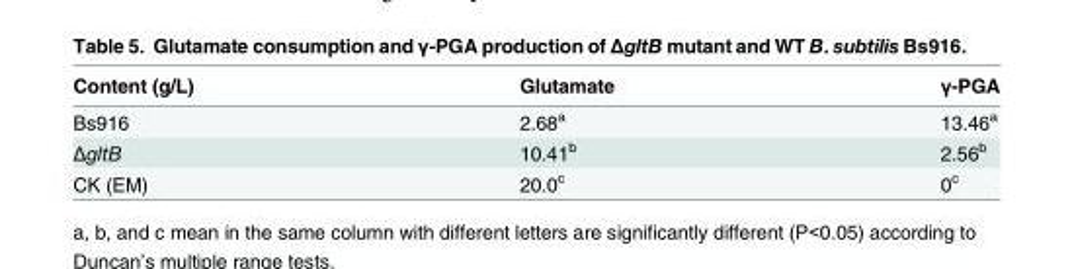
<table><thead><tr><td>Content (g/L)</td><td>Glutamate</td><td>γ-PGA</td></tr></thead><tbody><tr><td>Bs916</td><td>2.68<sup>a</sup></td><td>13.46<sup>a</sup></td></tr><tr><td>ΔgltB</td><td>10.41<sup>b</sup></td><td>2.56<sup>b</sup></td></tr><tr><td>CK (EM)</td><td>20.0<sup>c</sup></td><td>0<sup>c</sup></td></tr></tbody></table>